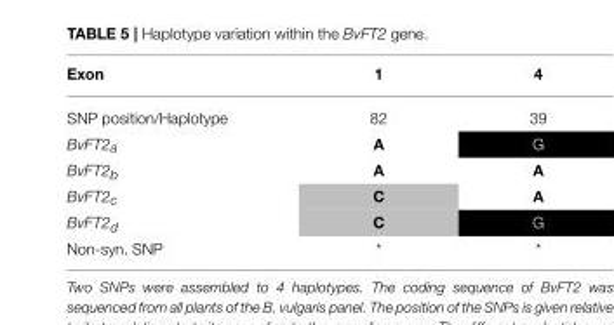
<table><thead><tr><td>Exon</td><td>1</td><td>4</td></tr></thead><tbody><tr><td>SNP position/Haplotype</td><td>82</td><td>39</td></tr><tr><td>BvFT2a</td><td>A</td><td>G</td></tr><tr><td>BvFT2b</td><td>A</td><td>A</td></tr><tr><td>BvFT2c</td><td>C</td><td>A</td></tr><tr><td>BvFT2d</td><td>C</td><td>G</td></tr><tr><td>Non-syn. SNP</td><td>*</td><td>*</td></tr></tbody></table>